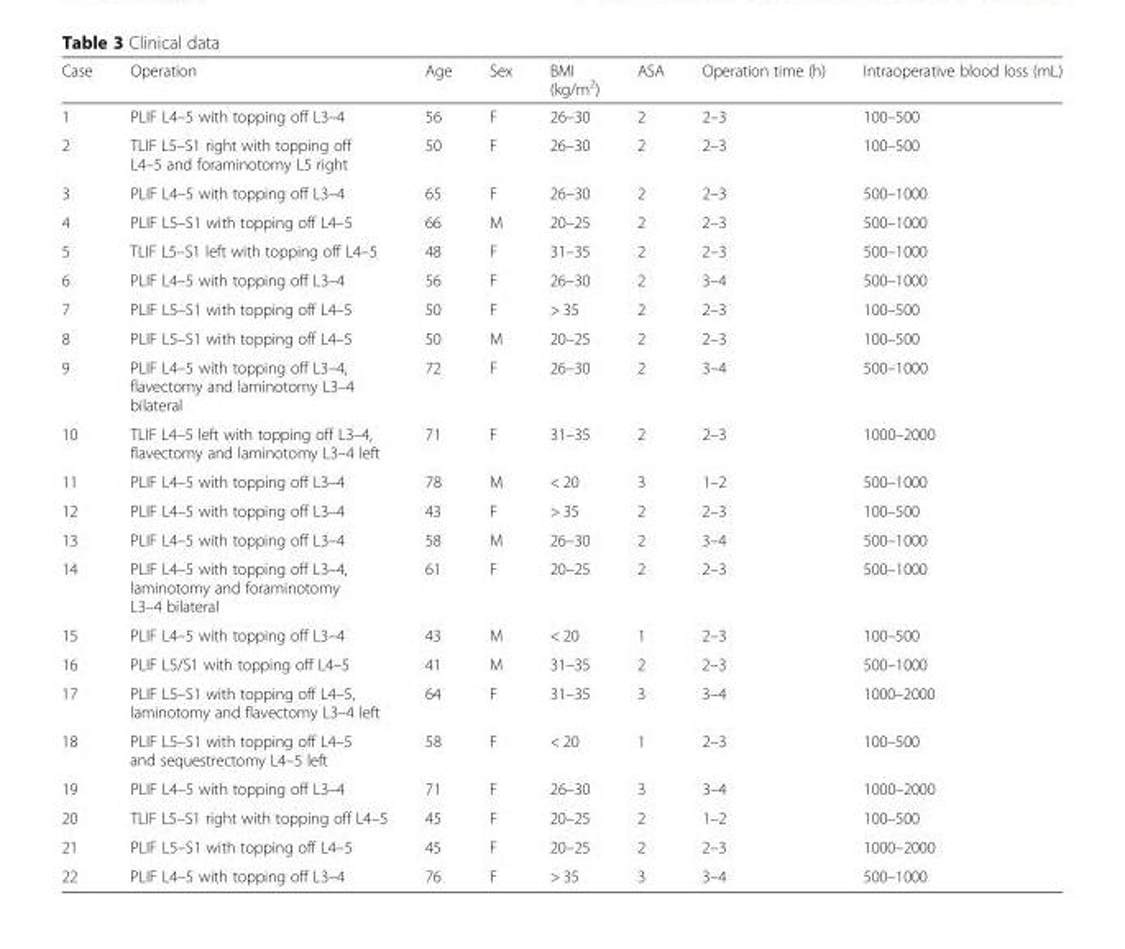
<table><thead><tr><td>Case</td><td>Operation</td><td>Age</td><td>Sex</td><td>BMI (kg/m<sup>2</sup>)</td><td>ASA</td><td>Operation time (h)</td><td>Intraoperative blood loss (mL)</td></tr></thead><tbody><tr><td>1</td><td>PLIF L4–5 with topping off L3–4</td><td>56</td><td>F</td><td>26–30</td><td>2</td><td>2–3</td><td>100–500</td></tr><tr><td>2</td><td>TLIF L5–S1 right with topping off L4–5 and foraminotomy L5 right</td><td>50</td><td>F</td><td>26–30</td><td>2</td><td>2–3</td><td>100–500</td></tr><tr><td>3</td><td>PLIF L4–5 with topping off L3–4</td><td>65</td><td>F</td><td>26–30</td><td>2</td><td>2–3</td><td>500–1000</td></tr><tr><td>4</td><td>PLIF L5–S1 with topping off L4–5</td><td>66</td><td>M</td><td>20–25</td><td>2</td><td>2–3</td><td>500–1000</td></tr><tr><td>5</td><td>TLIF L5–S1 left with topping off L4–5</td><td>48</td><td>F</td><td>31–35</td><td>2</td><td>2–3</td><td>500–1000</td></tr><tr><td>6</td><td>PLIF L4–5 with topping off L3–4</td><td>56</td><td>F</td><td>26–30</td><td>2</td><td>3–4</td><td>500–1000</td></tr><tr><td>7</td><td>PLIF L5–S1 with topping off L4–5</td><td>50</td><td>F</td><td>&gt; 35</td><td>2</td><td>2–3</td><td>100–500</td></tr><tr><td>8</td><td>PLIF L5–S1 with topping off L4–5</td><td>50</td><td>M</td><td>20–25</td><td>2</td><td>2–3</td><td>100–500</td></tr><tr><td>9</td><td>PLIF L4–5 with topping off L3–4, flavectomy and laminotomy L3–4 bilateral</td><td>72</td><td>F</td><td>26–30</td><td>2</td><td>3–4</td><td>500–1000</td></tr><tr><td>10</td><td>TLIF L4–5 left with topping off L3–4, flavectomy and laminotomy L3–4 left</td><td>71</td><td>F</td><td>31–35</td><td>2</td><td>2–3</td><td>1000–2000</td></tr><tr><td>11</td><td>PLIF L4–5 with topping off L3–4</td><td>78</td><td>M</td><td>&lt; 20</td><td>3</td><td>1–2</td><td>500–1000</td></tr><tr><td>12</td><td>PLIF L4–5 with topping off L3–4</td><td>43</td><td>F</td><td>&gt; 35</td><td>2</td><td>2–3</td><td>100–500</td></tr><tr><td>13</td><td>PLIF L4–5 with topping off L3–4</td><td>58</td><td>M</td><td>26–30</td><td>2</td><td>3–4</td><td>500–1000</td></tr><tr><td>14</td><td>PLIF L4–5 with topping off L3–4, laminotomy and foraminotomy L3–4 bilateral</td><td>61</td><td>F</td><td>20–25</td><td>2</td><td>2–3</td><td>500–1000</td></tr><tr><td>15</td><td>PLIF L4–5 with topping off L3–4</td><td>43</td><td>M</td><td>&lt; 20</td><td>1</td><td>2–3</td><td>100–500</td></tr><tr><td>16</td><td>PLIF L5/S1 with topping off L4–5</td><td>41</td><td>M</td><td>31–35</td><td>2</td><td>2–3</td><td>500–1000</td></tr><tr><td>17</td><td>PLIF L5–S1 with topping off L4–5, laminotomy and flavectomy L3–4 left</td><td>64</td><td>F</td><td>31–35</td><td>3</td><td>3–4</td><td>1000–2000</td></tr><tr><td>18</td><td>PLIF L5–S1 with topping off L4–5 and sequestrectomy L4–5 left</td><td>58</td><td>F</td><td>&lt; 20</td><td>1</td><td>2–3</td><td>100–500</td></tr><tr><td>19</td><td>PLIF L4–5 with topping off L3–4</td><td>71</td><td>F</td><td>26–30</td><td>3</td><td>3–4</td><td>1000–2000</td></tr><tr><td>20</td><td>TLIF L5–S1 right with topping off L4–5</td><td>45</td><td>F</td><td>20–25</td><td>2</td><td>1–2</td><td>100–500</td></tr><tr><td>21</td><td>PLIF L5–S1 with topping off L4–5</td><td>45</td><td>F</td><td>20–25</td><td>2</td><td>2–3</td><td>1000–2000</td></tr><tr><td>22</td><td>PLIF L4–5 with topping off L3–4</td><td>76</td><td>F</td><td>&gt; 35</td><td>3</td><td>3–4</td><td>500–1000</td></tr></tbody></table>